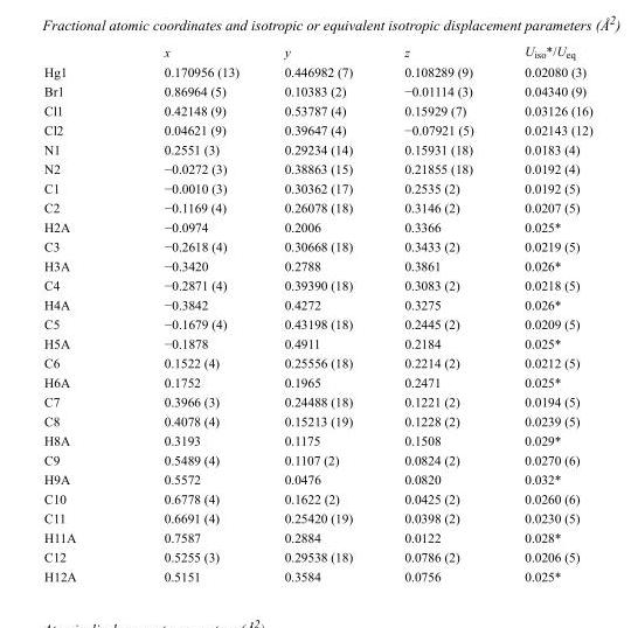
<table><thead><tr><td></td><td>x</td><td>y</td><td>z</td><td>U<sub>iso</sub>*/U<sub>eq</sub></td></tr></thead><tbody><tr><td>Hg1</td><td>0.170956 (13)</td><td>0.446982 (7)</td><td>0.108289 (9)</td><td>0.02080 (3)</td></tr><tr><td>Br1</td><td>0.86964 (5)</td><td>0.10383 (2)</td><td>−0.01114 (3)</td><td>0.04340 (9)</td></tr><tr><td>Cl1</td><td>0.42148 (9)</td><td>0.53787 (4)</td><td>0.15929 (7)</td><td>0.03126 (16)</td></tr><tr><td>Cl2</td><td>0.04621 (9)</td><td>0.39647 (4)</td><td>−0.07921 (5)</td><td>0.02143 (12)</td></tr><tr><td>N1</td><td>0.2551 (3)</td><td>0.29234 (14)</td><td>0.15931 (18)</td><td>0.0183 (4)</td></tr><tr><td>N2</td><td>−0.0272 (3)</td><td>0.38863 (15)</td><td>0.21855 (18)</td><td>0.0192 (4)</td></tr><tr><td>C1</td><td>−0.0010 (3)</td><td>0.30362 (17)</td><td>0.2535 (2)</td><td>0.0192 (5)</td></tr><tr><td>C2</td><td>−0.1169 (4)</td><td>0.26078 (18)</td><td>0.3146 (2)</td><td>0.0207 (5)</td></tr><tr><td>H2A</td><td>−0.0974</td><td>0.2006</td><td>0.3366</td><td>0.025*</td></tr><tr><td>C3</td><td>−0.2618 (4)</td><td>0.30668 (18)</td><td>0.3433 (2)</td><td>0.0219 (5)</td></tr><tr><td>H3A</td><td>−0.3420</td><td>0.2788</td><td>0.3861</td><td>0.026*</td></tr><tr><td>C4</td><td>−0.2871 (4)</td><td>0.39390 (18)</td><td>0.3083 (2)</td><td>0.0218 (5)</td></tr><tr><td>H4A</td><td>−0.3842</td><td>0.4272</td><td>0.3275</td><td>0.026*</td></tr><tr><td>C5</td><td>−0.1679 (4)</td><td>0.43198 (18)</td><td>0.2445 (2)</td><td>0.0209 (5)</td></tr><tr><td>H5A</td><td>−0.1878</td><td>0.4911</td><td>0.2184</td><td>0.025*</td></tr><tr><td>C6</td><td>0.1522 (4)</td><td>0.25556 (18)</td><td>0.2214 (2)</td><td>0.0212 (5)</td></tr><tr><td>H6A</td><td>0.1752</td><td>0.1965</td><td>0.2471</td><td>0.025*</td></tr><tr><td>C7</td><td>0.3966 (3)</td><td>0.24488 (18)</td><td>0.1221 (2)</td><td>0.0194 (5)</td></tr><tr><td>C8</td><td>0.4078 (4)</td><td>0.15213 (19)</td><td>0.1228 (2)</td><td>0.0239 (5)</td></tr><tr><td>H8A</td><td>0.3193</td><td>0.1175</td><td>0.1508</td><td>0.029*</td></tr><tr><td>C9</td><td>0.5489 (4)</td><td>0.1107 (2)</td><td>0.0824 (2)</td><td>0.0270 (6)</td></tr><tr><td>H9A</td><td>0.5572</td><td>0.0476</td><td>0.0820</td><td>0.032*</td></tr><tr><td>C10</td><td>0.6778 (4)</td><td>0.1622 (2)</td><td>0.0425 (2)</td><td>0.0260 (6)</td></tr><tr><td>C11</td><td>0.6691 (4)</td><td>0.25420 (19)</td><td>0.0398 (2)</td><td>0.0230 (5)</td></tr><tr><td>H11A</td><td>0.7587</td><td>0.2884</td><td>0.0122</td><td>0.028*</td></tr><tr><td>C12</td><td>0.5255 (3)</td><td>0.29538 (18)</td><td>0.0786 (2)</td><td>0.0206 (5)</td></tr><tr><td>H12A</td><td>0.5151</td><td>0.3584</td><td>0.0756</td><td>0.025*</td></tr></tbody></table>